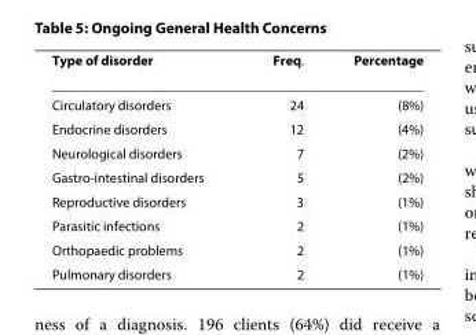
<table><thead><tr><td>Type of disorder</td><td>Freq.</td><td>Percentage</td></tr></thead><tbody><tr><td>Circulatory disorders</td><td>24</td><td>(8%)</td></tr><tr><td>Endocrine disorders</td><td>12</td><td>(4%)</td></tr><tr><td>Neurological disorders</td><td>7</td><td>(2%)</td></tr><tr><td>Gastro-intestinal disorders</td><td>5</td><td>(2%)</td></tr><tr><td>Reproductive disorders</td><td>3</td><td>(1%)</td></tr><tr><td>Parasitic infections</td><td>2</td><td>(1%)</td></tr><tr><td>Orthopaedic problems</td><td>2</td><td>(1%)</td></tr><tr><td>Pulmonary disorders</td><td>2</td><td>(1%)</td></tr></tbody></table>